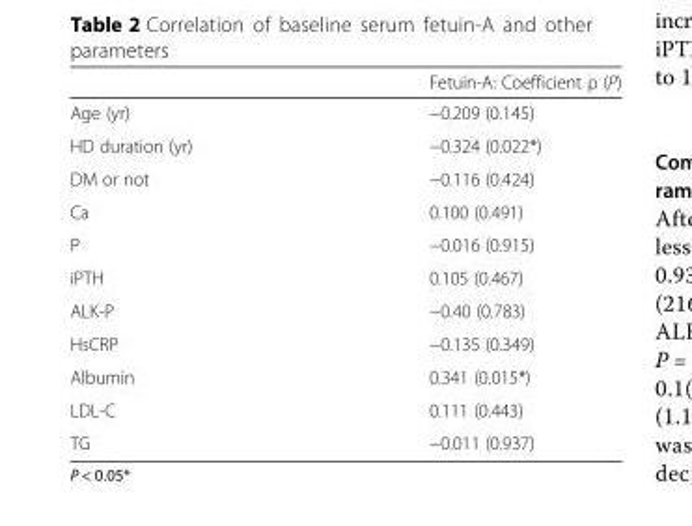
<table><thead><tr><td></td><td>Fetuin-A: Coefficient ρ (P)</td></tr></thead><tbody><tr><td>Age (yr)</td><td>−0.209 (0.145)</td></tr><tr><td>HD duration (yr)</td><td>−0.324 (0.022*)</td></tr><tr><td>DM or not</td><td>−0.116 (0.424)</td></tr><tr><td>Ca</td><td>0.100 (0.491)</td></tr><tr><td>P</td><td>−0.016 (0.915)</td></tr><tr><td>iPTH</td><td>0.105 (0.467)</td></tr><tr><td>ALK-P</td><td>−0.40 (0.783)</td></tr><tr><td>HsCRP</td><td>−0.135 (0.349)</td></tr><tr><td>Albumin</td><td>0.341 (0.015*)</td></tr><tr><td>LDL-C</td><td>0.111 (0.443)</td></tr><tr><td>TG</td><td>−0.011 (0.937)</td></tr></tbody></table>